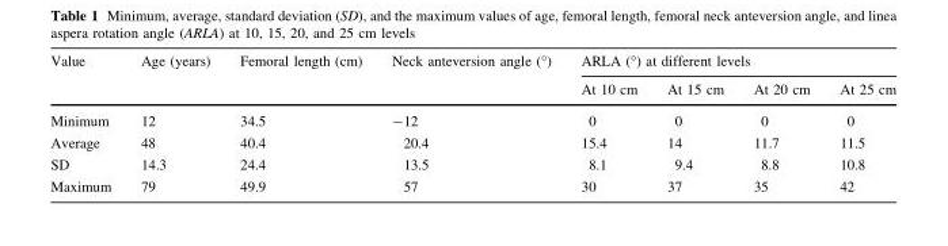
<table><thead><tr><td rowspan="2">Value</td><td rowspan="2">Age (years)</td><td rowspan="2">Femoral length (cm)</td><td rowspan="2">Neck anteversion angle (°)</td><td colspan="4">ARLA (°) at different levels</td></tr><tr><td>At 10 cm</td><td>At 15 cm</td><td>At 20 cm</td><td>At 25 cm</td></tr></thead><tbody><tr><td>Minimum</td><td>12</td><td>34.5</td><td>-12</td><td>0</td><td>0</td><td>0</td><td>0</td></tr><tr><td>Average</td><td>48</td><td>40.4</td><td>20.4</td><td>15.4</td><td>14</td><td>11.7</td><td>11.5</td></tr><tr><td>SD</td><td>14.3</td><td>24.4</td><td>13.5</td><td>8.1</td><td>9.4</td><td>8.8</td><td>10.8</td></tr><tr><td>Maximum</td><td>79</td><td>49.9</td><td>57</td><td>30</td><td>37</td><td>35</td><td>42</td></tr></tbody></table>